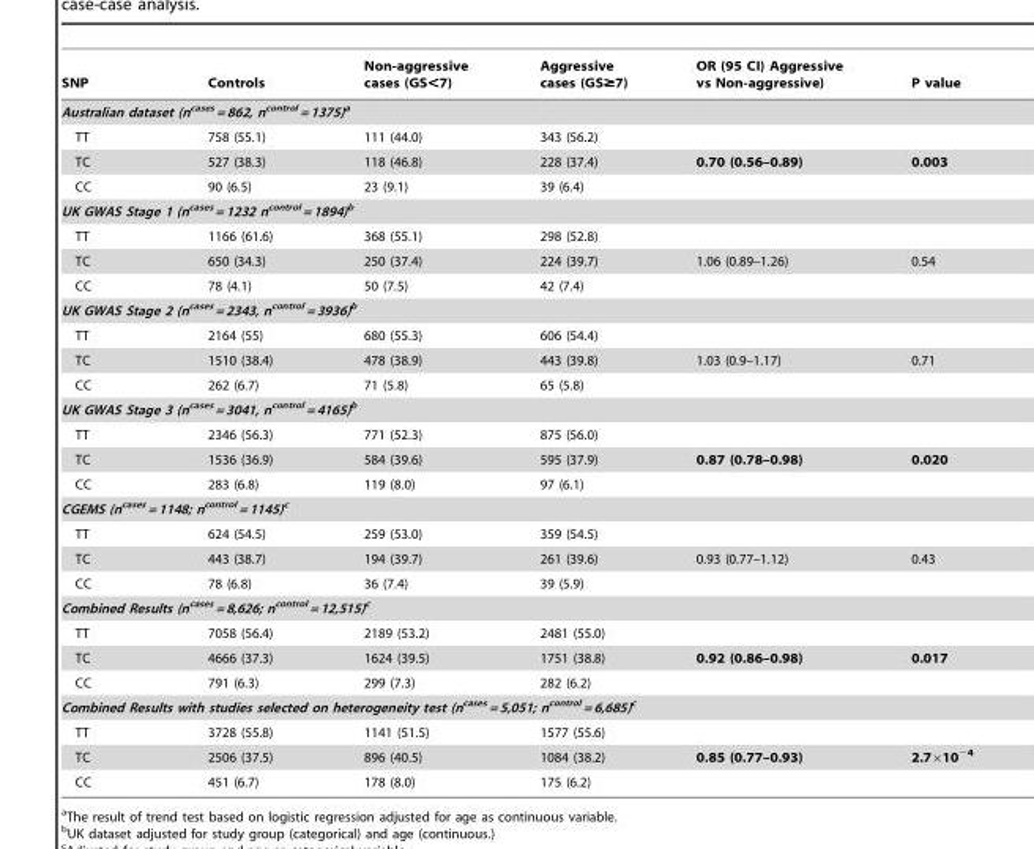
<table><thead><tr><td>SNP</td><td>Controls</td><td>Non-aggressive cases (GS&lt;7)</td><td>Aggressive cases (GS≥7)</td><td>OR (95 CI) Aggressive vs Non-aggressive)</td><td>P value</td></tr></thead><tbody><tr><td colspan="6">Australian dataset (n<sup>cases</sup> = 862, n<sup>control</sup> = 1375)a</td></tr><tr><td>TT</td><td>758 (55.1)</td><td>111 (44.0)</td><td>343 (56.2)</td><td></td><td></td></tr><tr><td>TC</td><td>527 (38.3)</td><td>118 (46.8)</td><td>228 (37.4)</td><td>0.70 (0.56–0.89)</td><td>0.003</td></tr><tr><td>CC</td><td>90 (6.5)</td><td>23 (9.1)</td><td>39 (6.4)</td><td></td><td></td></tr><tr><td colspan="6">UK GWAS Stage 1 (n<sup>cases</sup> = 1232 n<sup>control</sup> = 1894)b</td></tr><tr><td>TT</td><td>1166 (61.6)</td><td>368 (55.1)</td><td>298 (52.8)</td><td></td><td></td></tr><tr><td>TC</td><td>650 (34.3)</td><td>250 (37.4)</td><td>224 (39.7)</td><td>1.06 (0.89–1.26)</td><td>0.54</td></tr><tr><td>CC</td><td>78 (4.1)</td><td>50 (7.5)</td><td>42 (7.4)</td><td></td><td></td></tr><tr><td colspan="6">UK GWAS Stage 2 (n<sup>cases</sup> = 2343, n<sup>control</sup> = 3936)b</td></tr><tr><td>TT</td><td>2164 (55)</td><td>680 (55.3)</td><td>606 (54.4)</td><td></td><td></td></tr><tr><td>TC</td><td>1510 (38.4)</td><td>478 (38.9)</td><td>443 (39.8)</td><td>1.03 (0.9–1.17)</td><td>0.71</td></tr><tr><td>CC</td><td>262 (6.7)</td><td>71 (5.8)</td><td>65 (5.8)</td><td></td><td></td></tr><tr><td colspan="6">UK GWAS Stage 3 (n<sup>cases</sup> = 3041, n<sup>control</sup> = 4165)b</td></tr><tr><td>TT</td><td>2346 (56.3)</td><td>771 (52.3)</td><td>875 (56.0)</td><td></td><td></td></tr><tr><td>TC</td><td>1536 (36.9)</td><td>584 (39.6)</td><td>595 (37.9)</td><td>0.87 (0.78–0.98)</td><td>0.020</td></tr><tr><td>CC</td><td>283 (6.8)</td><td>119 (8.0)</td><td>97 (6.1)</td><td></td><td></td></tr><tr><td colspan="6">CGEMS (n<sup>cases</sup> = 1148; n<sup>control</sup> = 1145)c</td></tr><tr><td>TT</td><td>624 (54.5)</td><td>259 (53.0)</td><td>359 (54.5)</td><td></td><td></td></tr><tr><td>TC</td><td>443 (38.7)</td><td>194 (39.7)</td><td>261 (39.6)</td><td>0.93 (0.77–1.12)</td><td>0.43</td></tr><tr><td>CC</td><td>78 (6.8)</td><td>36 (7.4)</td><td>39 (5.9)</td><td></td><td></td></tr><tr><td colspan="6">Combined Results (n<sup>cases</sup> = 8,626; n<sup>control</sup> = 12,515)c</td></tr><tr><td>TT</td><td>7058 (56.4)</td><td>2189 (53.2)</td><td>2481 (55.0)</td><td></td><td></td></tr><tr><td>TC</td><td>4666 (37.3)</td><td>1624 (39.5)</td><td>1751 (38.8)</td><td>0.92 (0.86–0.98)</td><td>0.017</td></tr><tr><td>CC</td><td>791 (6.3)</td><td>299 (7.3)</td><td>282 (6.2)</td><td></td><td></td></tr><tr><td colspan="6">Combined Results with studies selected on heterogeneity test (n<sup>cases</sup> = 5,051; n<sup>control</sup> = 6,685)c</td></tr><tr><td>TT</td><td>3728 (55.8)</td><td>1141 (51.5)</td><td>1577 (55.6)</td><td></td><td></td></tr><tr><td>TC</td><td>2506 (37.5)</td><td>896 (40.5)</td><td>1084 (38.2)</td><td>0.85 (0.77–0.93)</td><td>2.7×10<sup>−4</sup></td></tr><tr><td>CC</td><td>451 (6.7)</td><td>178 (8.0)</td><td>175 (6.2)</td><td></td><td></td></tr></tbody></table>